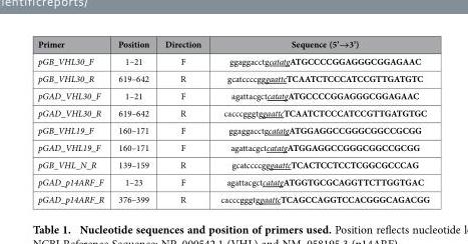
<table><thead><tr><td>Primer</td><td>Position</td><td>Direction</td><td>Sequence (5’→3’)</td></tr></thead><tbody><tr><td>pGB_VHL30_F</td><td>1–21</td><td>F</td><td>ggaggacctgcatatgATGCCCCGGAGGGCGGAGAAC</td></tr><tr><td>pGB_VHL30_R</td><td>619–642</td><td>R</td><td>gcatccccgggaattcTCAATCTCCCATCCGTTGATGTC</td></tr><tr><td>pGAD_VHL30_F</td><td>1–21</td><td>F</td><td>agattacgctcatatgATGCCCCGGAGGGCGGAGAAC</td></tr><tr><td>pGAD_VHL30_R</td><td>619–642</td><td>R</td><td>cacccgggtggaattcTCAATCTCCCATCCGTTGATGTGC</td></tr><tr><td>pGB_VHL19_F</td><td>160–171</td><td>F</td><td>ggaggacctgcatatgATGGAGGCCGGGCGGCCGCGG</td></tr><tr><td>pGAD_VHL19_F</td><td>160–171</td><td>F</td><td>agattacgctcatatgATGGAGGCCGGGCGGCCGCGG</td></tr><tr><td>pGB_VHL_N_R</td><td>139–159</td><td>R</td><td>gcatccccgggaattcTCACTCCTCCTCGGCGCCCAG</td></tr><tr><td>pGAD_p14ARF_F</td><td>1–23</td><td>F</td><td>agattacgctcatatgATGGTGCGCAGGTTCTTGGTGAC</td></tr><tr><td>pGAD_p14ARF_R</td><td>376–399</td><td>R</td><td>cacccgggtggaattcTCAGCCAGGTCCACGGGCAGACGG</td></tr></tbody></table>